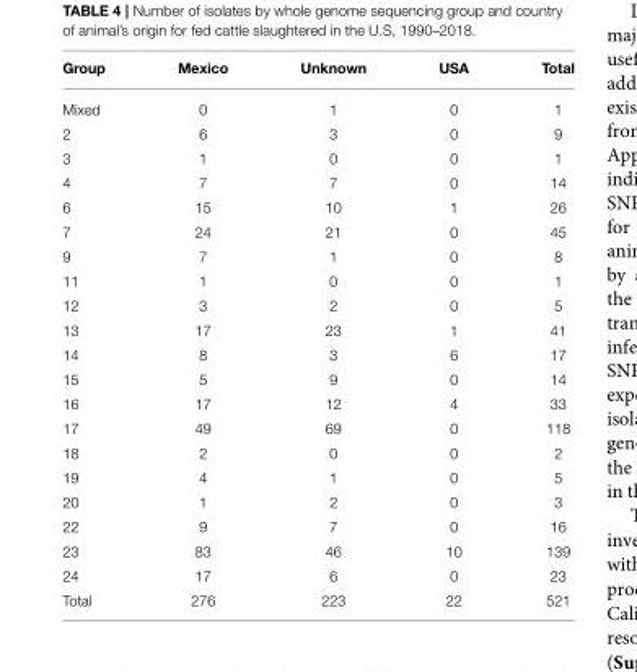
<table><thead><tr><td>Group</td><td>Mexico</td><td>Unknown</td><td>USA</td><td>Total</td></tr></thead><tbody><tr><td>Mixed</td><td>0</td><td>1</td><td>0</td><td>1</td></tr><tr><td>2</td><td>6</td><td>3</td><td>0</td><td>9</td></tr><tr><td>3</td><td>1</td><td>0</td><td>0</td><td>1</td></tr><tr><td>4</td><td>7</td><td>7</td><td>0</td><td>14</td></tr><tr><td>6</td><td>15</td><td>10</td><td>1</td><td>26</td></tr><tr><td>7</td><td>24</td><td>21</td><td>0</td><td>45</td></tr><tr><td>9</td><td>7</td><td>1</td><td>0</td><td>8</td></tr><tr><td>11</td><td>1</td><td>0</td><td>0</td><td>1</td></tr><tr><td>12</td><td>3</td><td>2</td><td>0</td><td>5</td></tr><tr><td>13</td><td>17</td><td>23</td><td>1</td><td>41</td></tr><tr><td>14</td><td>8</td><td>3</td><td>6</td><td>17</td></tr><tr><td>15</td><td>5</td><td>9</td><td>0</td><td>14</td></tr><tr><td>16</td><td>17</td><td>12</td><td>4</td><td>33</td></tr><tr><td>17</td><td>49</td><td>69</td><td>0</td><td>118</td></tr><tr><td>18</td><td>2</td><td>0</td><td>0</td><td>2</td></tr><tr><td>19</td><td>4</td><td>1</td><td>0</td><td>5</td></tr><tr><td>20</td><td>1</td><td>2</td><td>0</td><td>3</td></tr><tr><td>22</td><td>9</td><td>7</td><td>0</td><td>16</td></tr><tr><td>23</td><td>83</td><td>46</td><td>10</td><td>139</td></tr><tr><td>24</td><td>17</td><td>6</td><td>0</td><td>23</td></tr><tr><td>Total</td><td>276</td><td>223</td><td>22</td><td>521</td></tr></tbody></table>